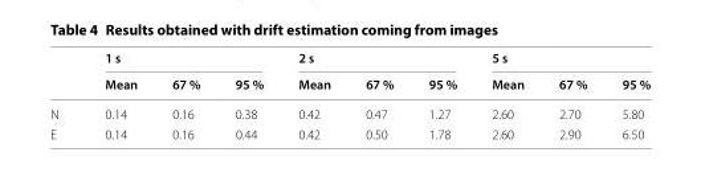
<table><thead><tr><td rowspan="2"></td><td colspan="3">1 s</td><td colspan="3">2 s</td><td colspan="3">5 s</td></tr><tr><td>Mean</td><td>67 %</td><td>95 %</td><td>Mean</td><td>67 %</td><td>95 %</td><td>Mean</td><td>67 %</td><td>95 %</td></tr></thead><tbody><tr><td>N</td><td>0.14</td><td>0.16</td><td>0.38</td><td>0.42</td><td>0.47</td><td>1.27</td><td>2.60</td><td>2.70</td><td>5.80</td></tr><tr><td>E</td><td>0.14</td><td>0.16</td><td>0.44</td><td>0.42</td><td>0.50</td><td>1.78</td><td>2.60</td><td>2.90</td><td>6.50</td></tr></tbody></table>